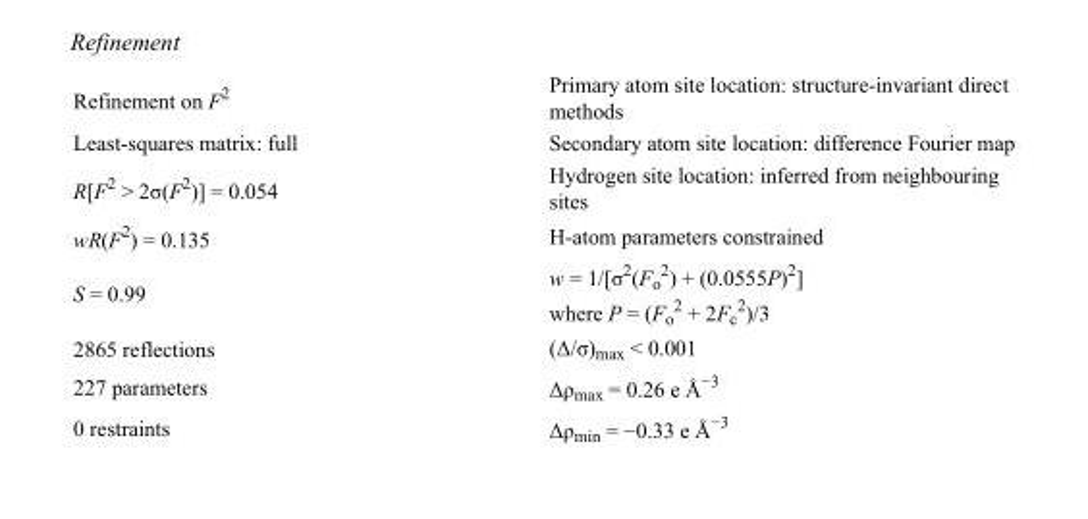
<table><tbody><tr><td>Refinement on F<sup>2</sup></td><td>Primary atom site location: structure-invariant direct methods</td></tr><tr><td>Least-squares matrix: full</td><td>Secondary atom site location: difference Fourier map</td></tr><tr><td>R[F<sup>2</sup> &gt; 2σ(F<sup>2</sup>)] = 0.054</td><td>Hydrogen site location: inferred from neighbouring sites</td></tr><tr><td>wR(F<sup>2</sup>) = 0.135</td><td>H-atom parameters constrained</td></tr><tr><td>S = 0.99</td><td>w = 1/[σ<sup>2</sup>(F<sub>o</sub> <sup>2</sup>) + (0.0555P)<sup>2</sup>] where P = (F<sub>o</sub> <sup>2</sup> + 2F<sub>c</sub> <sup>2</sup>)/3</td></tr><tr><td>2865 reflections</td><td>(Δ/σ)<sub>max</sub> &lt; 0.001</td></tr><tr><td>227 parameters</td><td>Δρ<sub>max</sub> = 0.26 e Å<sup>−3</sup></td></tr><tr><td>0 restraints</td><td>Δρ<sub>min</sub> = −0.33 e Å<sup>−3</sup></td></tr></tbody></table>